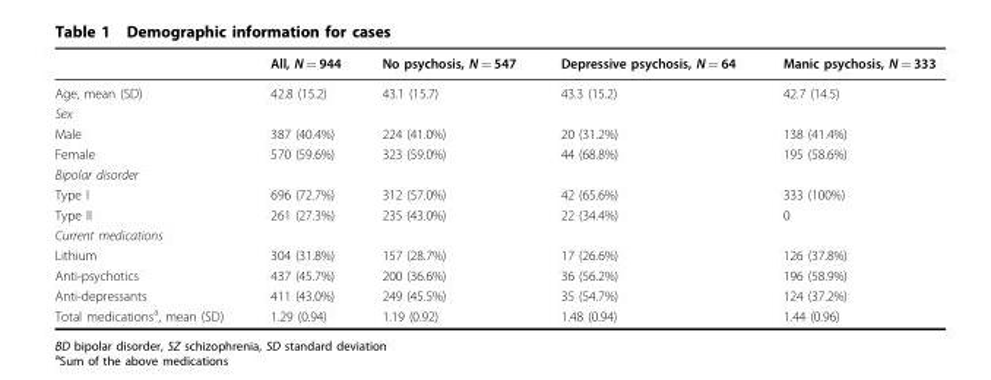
<table><thead><tr><td></td><td>All, N = 944</td><td>No psychosis, N = 547</td><td>Depressive psychosis, N = 64</td><td>Manic psychosis, N = 333</td></tr></thead><tbody><tr><td>Age, mean (SD)</td><td>42.8 (15.2)</td><td>43.1 (15.7)</td><td>43.3 (15.2)</td><td>42.7 (14.5)</td></tr><tr><td colspan="5">Sex</td></tr><tr><td>Male</td><td>387 (40.4%)</td><td>224 (41.0%)</td><td>20 (31.2%)</td><td>138 (41.4%)</td></tr><tr><td>Female</td><td>570 (59.6%)</td><td>323 (59.0%)</td><td>44 (68.8%)</td><td>195 (58.6%)</td></tr><tr><td colspan="5">Bipolar disorder</td></tr><tr><td>Type I</td><td>696 (72.7%)</td><td>312 (57.0%)</td><td>42 (65.6%)</td><td>333 (100%)</td></tr><tr><td>Type II</td><td>261 (27.3%)</td><td>235 (43.0%)</td><td>22 (34.4%)</td><td>0</td></tr><tr><td colspan="5">Current medications</td></tr><tr><td>Lithium</td><td>304 (31.8%)</td><td>157 (28.7%)</td><td>17 (26.6%)</td><td>126 (37.8%)</td></tr><tr><td>Anti-psychotics</td><td>437 (45.7%)</td><td>200 (36.6%)</td><td>36 (56.2%)</td><td>196 (58.9%)</td></tr><tr><td>Anti-depressants</td><td>411 (43.0%)</td><td>249 (45.5%)</td><td>35 (54.7%)</td><td>124 (37.2%)</td></tr><tr><td>Total medications<sup>a</sup>, mean (SD)</td><td>1.29 (0.94)</td><td>1.19 (0.92)</td><td>1.48 (0.94)</td><td>1.44 (0.96)</td></tr></tbody></table>